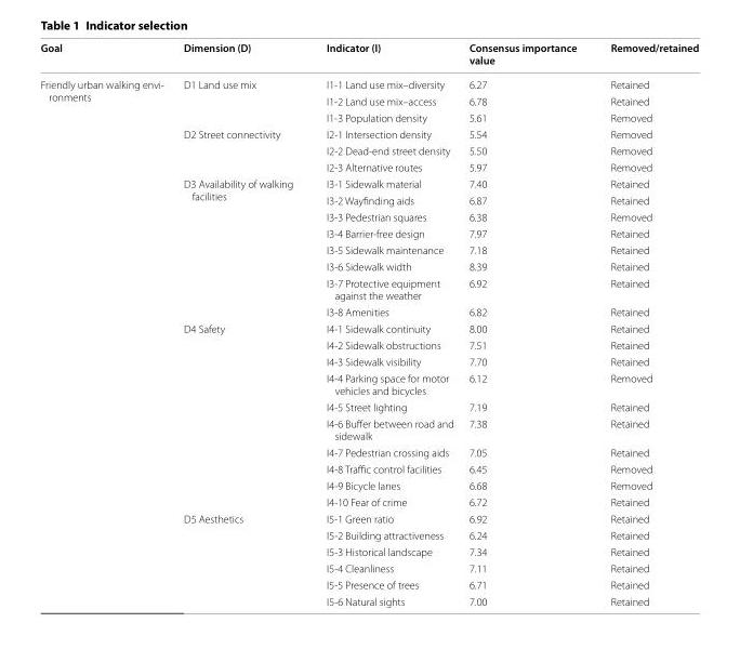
<table><thead><tr><td>Goal</td><td>Dimension (D)</td><td>Indicator (I)</td><td>Consensus importance value</td><td>Removed/retained</td></tr></thead><tbody><tr><td rowspan="30">Friendly urban walking envi‑ ronments</td><td rowspan="3">D1 Land use mix</td><td>I1‑1 Land use mix–diversity</td><td>6.27</td><td>Retained</td></tr><tr><td>I1‑2 Land use mix–access</td><td>6.78</td><td>Retained</td></tr><tr><td>I1‑3 Population density</td><td>5.61</td><td>Removed</td></tr><tr><td rowspan="3">D2 Street connectivity</td><td>I2‑1 Intersection density</td><td>5.54</td><td>Removed</td></tr><tr><td>I2‑2 Dead‑end street density</td><td>5.50</td><td>Removed</td></tr><tr><td>I2‑3 Alternative routes</td><td>5.97</td><td>Removed</td></tr><tr><td rowspan="8">D3 Availability of walking facilities</td><td>I3‑1 Sidewalk material</td><td>7.40</td><td>Retained</td></tr><tr><td>I3‑2 Wayfinding aids</td><td>6.87</td><td>Retained</td></tr><tr><td>I3‑3 Pedestrian squares</td><td>6.38</td><td>Removed</td></tr><tr><td>I3‑4 Barrier‑free design</td><td>7.97</td><td>Retained</td></tr><tr><td>I3‑5 Sidewalk maintenance</td><td>7.18</td><td>Retained</td></tr><tr><td>I3‑6 Sidewalk width</td><td>8.39</td><td>Retained</td></tr><tr><td>I3‑7 Protective equipment against the weather</td><td>6.92</td><td>Retained</td></tr><tr><td>I3‑8 Amenities</td><td>6.82</td><td>Retained</td></tr><tr><td rowspan="10">D4 Safety</td><td>I4‑1 Sidewalk continuity</td><td>8.00</td><td>Retained</td></tr><tr><td>I4‑2 Sidewalk obstructions</td><td>7.51</td><td>Retained</td></tr><tr><td>I4‑3 Sidewalk visibility</td><td>7.70</td><td>Retained</td></tr><tr><td>I4‑4 Parking space for motor vehicles and bicycles</td><td>6.12</td><td>Removed</td></tr><tr><td>I4‑5 Street lighting</td><td>7.19</td><td>Retained</td></tr><tr><td>I4‑6 Buffer between road and sidewalk</td><td>7.38</td><td>Retained</td></tr><tr><td>I4‑7 Pedestrian crossing aids</td><td>7.05</td><td>Retained</td></tr><tr><td>I4‑8 Traffic control facilities</td><td>6.45</td><td>Removed</td></tr><tr><td>I4‑9 Bicycle lanes</td><td>6.68</td><td>Removed</td></tr><tr><td>I4‑10 Fear of crime</td><td>6.72</td><td>Retained</td></tr><tr><td rowspan="6">D5 Aesthetics</td><td>I5‑1 Green ratio</td><td>6.92</td><td>Retained</td></tr><tr><td>I5‑2 Building attractiveness</td><td>6.24</td><td>Retained</td></tr><tr><td>I5‑3 Historical landscape</td><td>7.34</td><td>Retained</td></tr><tr><td>I5‑4 Cleanliness</td><td>7.11</td><td>Retained</td></tr><tr><td>I5‑5 Presence of trees</td><td>6.71</td><td>Retained</td></tr><tr><td>I5‑6 Natural sights</td><td>7.00</td><td>Retained</td></tr></tbody></table>